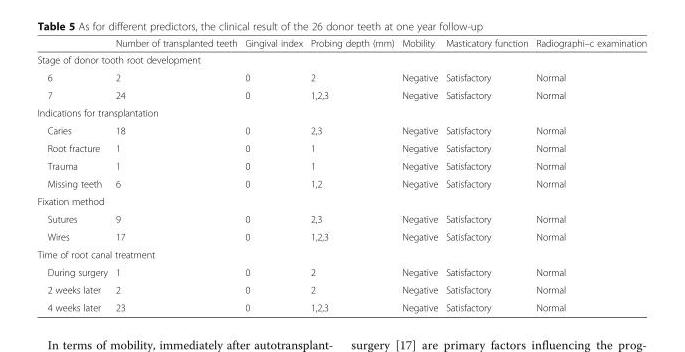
<table><thead><tr><td></td><td>Number of transplanted teeth</td><td>Gingival index</td><td>Probing depth (mm)</td><td>Mobility</td><td>Masticatory function</td><td>Radiographi–c examination</td></tr></thead><tbody><tr><td colspan="7">Stage of donor tooth root development</td></tr><tr><td>6</td><td>2</td><td>0</td><td>2</td><td>Negative</td><td>Satisfactory</td><td>Normal</td></tr><tr><td>7</td><td>24</td><td>0</td><td>1,2,3</td><td>Negative</td><td>Satisfactory</td><td>Normal</td></tr><tr><td colspan="7">Indications for transplantation</td></tr><tr><td>Caries</td><td>18</td><td>0</td><td>2,3</td><td>Negative</td><td>Satisfactory</td><td>Normal</td></tr><tr><td>Root fracture</td><td>1</td><td>0</td><td>1</td><td>Negative</td><td>Satisfactory</td><td>Normal</td></tr><tr><td>Trauma</td><td>1</td><td>0</td><td>1</td><td>Negative</td><td>Satisfactory</td><td>Normal</td></tr><tr><td>Missing teeth</td><td>6</td><td>0</td><td>1,2</td><td>Negative</td><td>Satisfactory</td><td>Normal</td></tr><tr><td colspan="7">Fixation method</td></tr><tr><td>Sutures</td><td>9</td><td>0</td><td>2,3</td><td>Negative</td><td>Satisfactory</td><td>Normal</td></tr><tr><td>Wires</td><td>17</td><td>0</td><td>1,2,3</td><td>Negative</td><td>Satisfactory</td><td>Normal</td></tr><tr><td colspan="7">Time of root canal treatment</td></tr><tr><td>During surgery</td><td>1</td><td>0</td><td>2</td><td>Negative</td><td>Satisfactory</td><td>Normal</td></tr><tr><td>2 weeks later</td><td>2</td><td>0</td><td>2</td><td>Negative</td><td>Satisfactory</td><td>Normal</td></tr><tr><td>4 weeks later</td><td>23</td><td>0</td><td>1,2,3</td><td>Negative</td><td>Satisfactory</td><td>Normal</td></tr></tbody></table>